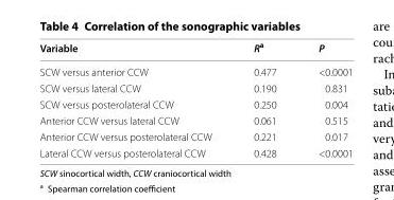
<table><thead><tr><td>Variable</td><td>R<sup>a</sup></td><td>P</td></tr></thead><tbody><tr><td>SCW versus anterior CCW</td><td>0.477</td><td>&lt;0.0001</td></tr><tr><td>SCW versus lateral CCW</td><td>0.190</td><td>0.831</td></tr><tr><td>SCW versus posterolateral CCW</td><td>0.250</td><td>0.004</td></tr><tr><td>Anterior CCW versus lateral CCW</td><td>0.061</td><td>0.515</td></tr><tr><td>Anterior CCW versus posterolateral CCW</td><td>0.221</td><td>0.017</td></tr><tr><td>Lateral CCW versus posterolateral CCW</td><td>0.428</td><td>&lt;0.0001</td></tr></tbody></table>